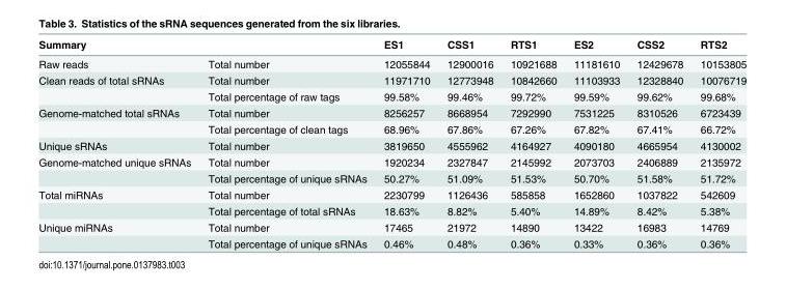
<table><thead><tr><td>Summary</td><td></td><td>ES1</td><td>CSS1</td><td>RTS1</td><td>ES2</td><td>CSS2</td><td>RTS2</td></tr></thead><tbody><tr><td>Raw reads</td><td>Total number</td><td>12055844</td><td>12900016</td><td>10921688</td><td>11181610</td><td>12429678</td><td>10153805</td></tr><tr><td rowspan="2">Clean reads of total sRNAs</td><td>Total number</td><td>11971710</td><td>12773948</td><td>10842660</td><td>11103933</td><td>12328840</td><td>10076719</td></tr><tr><td>Total percentage of raw tags</td><td>99.58%</td><td>99.46%</td><td>99.72%</td><td>99.59%</td><td>99.62%</td><td>99.68%</td></tr><tr><td rowspan="2">Genome-matched total sRNAs</td><td>Total number</td><td>8256257</td><td>8668954</td><td>7292990</td><td>7531225</td><td>8310526</td><td>6723439</td></tr><tr><td>Total percentage of clean tags</td><td>68.96%</td><td>67.86%</td><td>67.26%</td><td>67.82%</td><td>67.41%</td><td>66.72%</td></tr><tr><td>Unique sRNAs</td><td>Total number</td><td>3819650</td><td>4555962</td><td>4164927</td><td>4090180</td><td>4665954</td><td>4130002</td></tr><tr><td rowspan="2">Genome-matched unique sRNAs</td><td>Total number</td><td>1920234</td><td>2327847</td><td>2145992</td><td>2073703</td><td>2406889</td><td>2135972</td></tr><tr><td>Total percentage of unique sRNAs</td><td>50.27%</td><td>51.09%</td><td>51.53%</td><td>50.70%</td><td>51.58%</td><td>51.72%</td></tr><tr><td rowspan="2">Total miRNAs</td><td>Total number</td><td>2230799</td><td>1126436</td><td>585858</td><td>1652860</td><td>1037822</td><td>542609</td></tr><tr><td>Total percentage of total sRNAs</td><td>18.63%</td><td>8.82%</td><td>5.40%</td><td>14.89%</td><td>8.42%</td><td>5.38%</td></tr><tr><td rowspan="2">Unique miRNAs</td><td>Total number</td><td>17465</td><td>21972</td><td>14890</td><td>13422</td><td>16983</td><td>14769</td></tr><tr><td>Total percentage of unique sRNAs</td><td>0.46%</td><td>0.48%</td><td>0.36%</td><td>0.33%</td><td>0.36%</td><td>0.36%</td></tr></tbody></table>